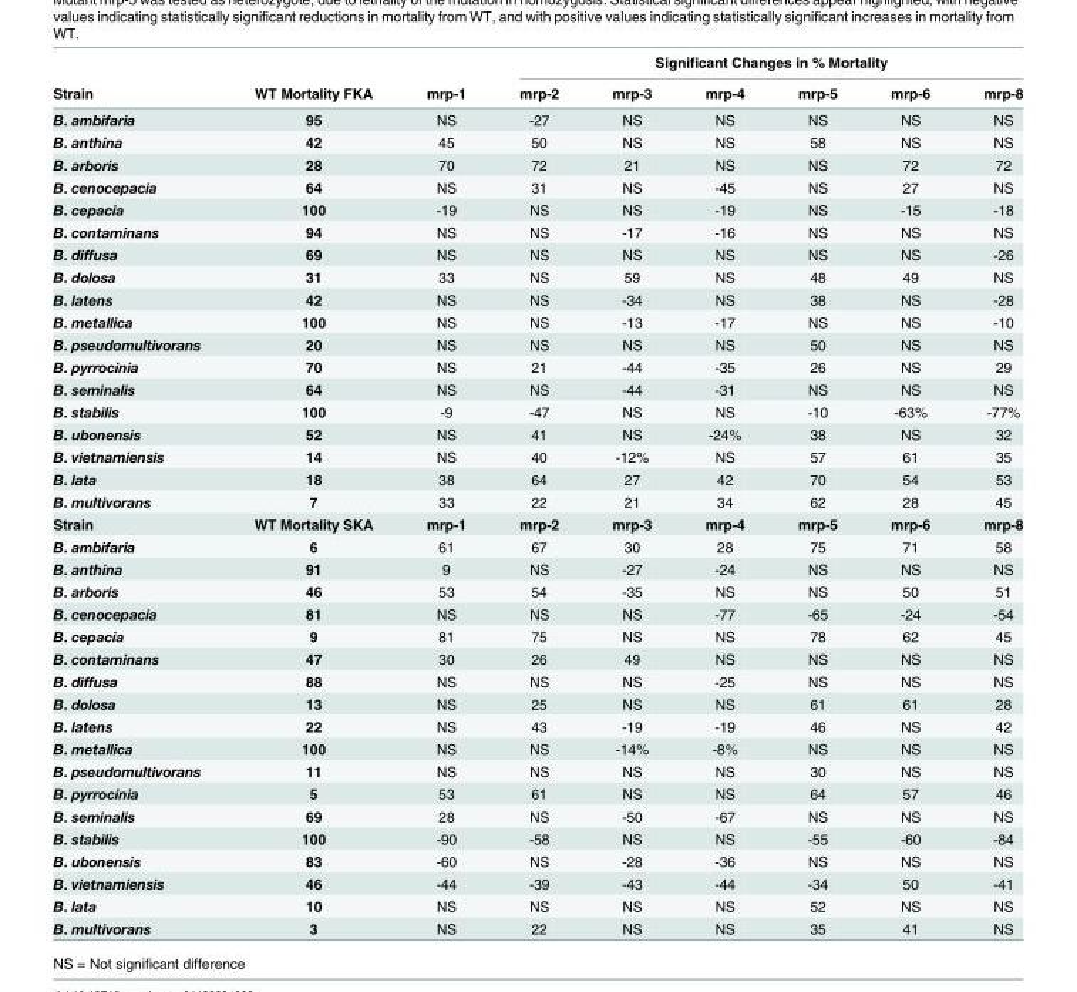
<table><thead><tr><td rowspan="2">Strain</td><td rowspan="2">WT Mortality FKA</td><td rowspan="2">mrp-1</td><td colspan="6">Significant Changes in % Mortality</td></tr><tr><td>mrp-2</td><td>mrp-3</td><td>mrp-4</td><td>mrp-5</td><td>mrp-6</td><td>mrp-8</td></tr></thead><tbody><tr><td>B. ambifaria</td><td>95</td><td>NS</td><td>-27</td><td>NS</td><td>NS</td><td>NS</td><td>NS</td><td>NS</td></tr><tr><td>B. anthina</td><td>42</td><td>45</td><td>50</td><td>NS</td><td>NS</td><td>58</td><td>NS</td><td>NS</td></tr><tr><td>B. arboris</td><td>28</td><td>70</td><td>72</td><td>21</td><td>NS</td><td>NS</td><td>72</td><td>72</td></tr><tr><td>B. cenocepacia</td><td>64</td><td>NS</td><td>31</td><td>NS</td><td>-45</td><td>NS</td><td>27</td><td>NS</td></tr><tr><td>B. cepacia</td><td>100</td><td>-19</td><td>NS</td><td>NS</td><td>-19</td><td>NS</td><td>-15</td><td>-18</td></tr><tr><td>B. contaminans</td><td>94</td><td>NS</td><td>NS</td><td>-17</td><td>-16</td><td>NS</td><td>NS</td><td>NS</td></tr><tr><td>B. diffusa</td><td>69</td><td>NS</td><td>NS</td><td>NS</td><td>NS</td><td>NS</td><td>NS</td><td>-26</td></tr><tr><td>B. dolosa</td><td>31</td><td>33</td><td>NS</td><td>59</td><td>NS</td><td>48</td><td>49</td><td>NS</td></tr><tr><td>B. latens</td><td>42</td><td>NS</td><td>NS</td><td>-34</td><td>NS</td><td>38</td><td>NS</td><td>-28</td></tr><tr><td>B. metallica</td><td>100</td><td>NS</td><td>NS</td><td>-13</td><td>-17</td><td>NS</td><td>NS</td><td>-10</td></tr><tr><td>B. pseudomultivorans</td><td>20</td><td>NS</td><td>NS</td><td>NS</td><td>NS</td><td>50</td><td>NS</td><td>NS</td></tr><tr><td>B. pyrrocinia</td><td>70</td><td>NS</td><td>21</td><td>-44</td><td>-35</td><td>26</td><td>NS</td><td>29</td></tr><tr><td>B. seminalis</td><td>64</td><td>NS</td><td>NS</td><td>-44</td><td>-31</td><td>NS</td><td>NS</td><td>NS</td></tr><tr><td>B. stabilis</td><td>100</td><td>-9</td><td>-47</td><td>NS</td><td>NS</td><td>-10</td><td>-63%</td><td>-77%</td></tr><tr><td>B. ubonensis</td><td>52</td><td>NS</td><td>41</td><td>NS</td><td>-24%</td><td>38</td><td>NS</td><td>32</td></tr><tr><td>B. vietnamiensis</td><td>14</td><td>NS</td><td>40</td><td>-12%</td><td>NS</td><td>57</td><td>61</td><td>35</td></tr><tr><td>B. lata</td><td>18</td><td>38</td><td>64</td><td>27</td><td>42</td><td>70</td><td>54</td><td>53</td></tr><tr><td>B. multivorans</td><td>7</td><td>33</td><td>22</td><td>21</td><td>34</td><td>62</td><td>28</td><td>45</td></tr><tr><td>Strain</td><td>WT Mortality SKA</td><td>mrp-1</td><td>mrp-2</td><td>mrp-3</td><td>mrp-4</td><td>mrp-5</td><td>mrp-6</td><td>mrp-8</td></tr><tr><td>B. ambifaria</td><td>6</td><td>61</td><td>67</td><td>30</td><td>28</td><td>75</td><td>71</td><td>58</td></tr><tr><td>B. anthina</td><td>91</td><td>9</td><td>NS</td><td>-27</td><td>-24</td><td>NS</td><td>NS</td><td>NS</td></tr><tr><td>B. arboris</td><td>46</td><td>53</td><td>54</td><td>-35</td><td>NS</td><td>NS</td><td>50</td><td>51</td></tr><tr><td>B. cenocepacia</td><td>81</td><td>NS</td><td>NS</td><td>NS</td><td>-77</td><td>-65</td><td>-24</td><td>-54</td></tr><tr><td>B. cepacia</td><td>9</td><td>81</td><td>75</td><td>NS</td><td>NS</td><td>78</td><td>62</td><td>45</td></tr><tr><td>B. contaminans</td><td>47</td><td>30</td><td>26</td><td>49</td><td>NS</td><td>NS</td><td>NS</td><td>NS</td></tr><tr><td>B. diffusa</td><td>88</td><td>NS</td><td>NS</td><td>NS</td><td>-25</td><td>NS</td><td>NS</td><td>NS</td></tr><tr><td>B. dolosa</td><td>13</td><td>NS</td><td>25</td><td>NS</td><td>NS</td><td>61</td><td>61</td><td>28</td></tr><tr><td>B. latens</td><td>22</td><td>NS</td><td>43</td><td>-19</td><td>-19</td><td>46</td><td>NS</td><td>42</td></tr><tr><td>B. metallica</td><td>100</td><td>NS</td><td>NS</td><td>-14%</td><td>-8%</td><td>NS</td><td>NS</td><td>NS</td></tr><tr><td>B. pseudomultivorans</td><td>11</td><td>NS</td><td>NS</td><td>NS</td><td>NS</td><td>30</td><td>NS</td><td>NS</td></tr><tr><td>B. pyrrocinia</td><td>5</td><td>53</td><td>61</td><td>NS</td><td>NS</td><td>64</td><td>57</td><td>46</td></tr><tr><td>B. seminalis</td><td>69</td><td>28</td><td>NS</td><td>-50</td><td>-67</td><td>NS</td><td>NS</td><td>NS</td></tr><tr><td>B. stabilis</td><td>100</td><td>-90</td><td>-58</td><td>NS</td><td>NS</td><td>-55</td><td>-60</td><td>-84</td></tr><tr><td>B. ubonensis</td><td>83</td><td>-60</td><td>NS</td><td>-28</td><td>-36</td><td>NS</td><td>NS</td><td>NS</td></tr><tr><td>B. vietnamiensis</td><td>46</td><td>-44</td><td>-39</td><td>-43</td><td>-44</td><td>-34</td><td>50</td><td>-41</td></tr><tr><td>B. lata</td><td>10</td><td>NS</td><td>NS</td><td>NS</td><td>NS</td><td>52</td><td>NS</td><td>NS</td></tr><tr><td>B. multivorans</td><td>3</td><td>NS</td><td>22</td><td>NS</td><td>NS</td><td>35</td><td>41</td><td>NS</td></tr></tbody></table>